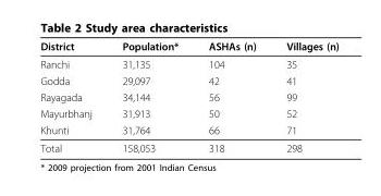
<table><thead><tr><td>District</td><td>Population*</td><td>ASHAs (n)</td><td>Villages (n)</td></tr></thead><tbody><tr><td>Ranchi</td><td>31,135</td><td>104</td><td>35</td></tr><tr><td>Godda</td><td>29,097</td><td>42</td><td>41</td></tr><tr><td>Rayagada</td><td>34,144</td><td>56</td><td>99</td></tr><tr><td>Mayurbhanj</td><td>31,913</td><td>50</td><td>52</td></tr><tr><td>Khunti</td><td>31,764</td><td>66</td><td>71</td></tr><tr><td>Total</td><td>158,053</td><td>318</td><td>298</td></tr></tbody></table>